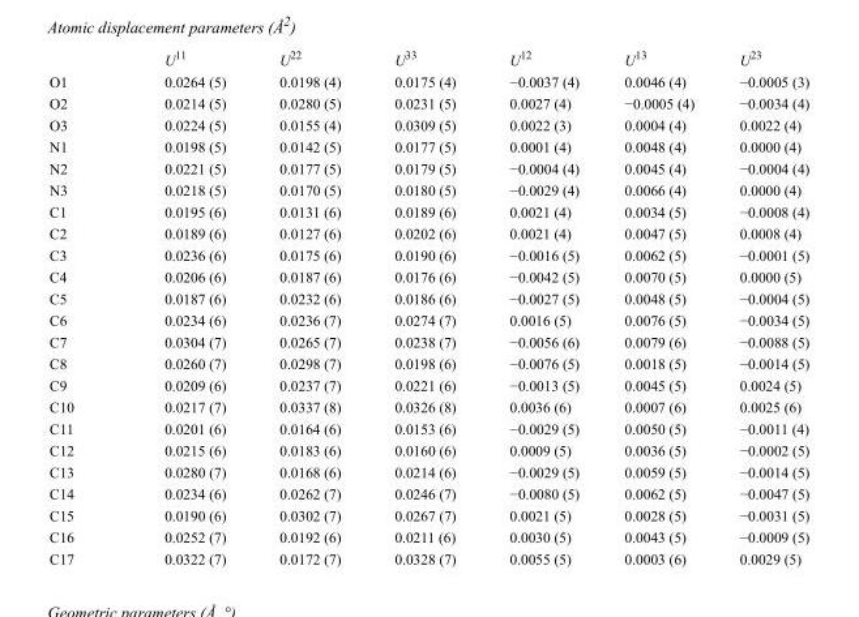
<table><thead><tr><td></td><td>U<sup>11</sup></td><td>U<sup>22</sup></td><td>U<sup>33</sup></td><td>U<sup>12</sup></td><td>U<sup>13</sup></td><td>U<sup>23</sup></td></tr></thead><tbody><tr><td>O1</td><td>0.0264 (5)</td><td>0.0198 (4)</td><td>0.0175 (4)</td><td>−0.0037 (4)</td><td>0.0046 (4)</td><td>−0.0005 (3)</td></tr><tr><td>O2</td><td>0.0214 (5)</td><td>0.0280 (5)</td><td>0.0231 (5)</td><td>0.0027 (4)</td><td>−0.0005 (4)</td><td>−0.0034 (4)</td></tr><tr><td>O3</td><td>0.0224 (5)</td><td>0.0155 (4)</td><td>0.0309 (5)</td><td>0.0022 (3)</td><td>0.0004 (4)</td><td>0.0022 (4)</td></tr><tr><td>N1</td><td>0.0198 (5)</td><td>0.0142 (5)</td><td>0.0177 (5)</td><td>0.0001 (4)</td><td>0.0048 (4)</td><td>0.0000 (4)</td></tr><tr><td>N2</td><td>0.0221 (5)</td><td>0.0177 (5)</td><td>0.0179 (5)</td><td>−0.0004 (4)</td><td>0.0045 (4)</td><td>−0.0004 (4)</td></tr><tr><td>N3</td><td>0.0218 (5)</td><td>0.0170 (5)</td><td>0.0180 (5)</td><td>−0.0029 (4)</td><td>0.0066 (4)</td><td>0.0000 (4)</td></tr><tr><td>C1</td><td>0.0195 (6)</td><td>0.0131 (6)</td><td>0.0189 (6)</td><td>0.0021 (4)</td><td>0.0034 (5)</td><td>−0.0008 (4)</td></tr><tr><td>C2</td><td>0.0189 (6)</td><td>0.0127 (6)</td><td>0.0202 (6)</td><td>0.0021 (4)</td><td>0.0047 (5)</td><td>0.0008 (4)</td></tr><tr><td>C3</td><td>0.0236 (6)</td><td>0.0175 (6)</td><td>0.0190 (6)</td><td>−0.0016 (5)</td><td>0.0062 (5)</td><td>−0.0001 (5)</td></tr><tr><td>C4</td><td>0.0206 (6)</td><td>0.0187 (6)</td><td>0.0176 (6)</td><td>−0.0042 (5)</td><td>0.0070 (5)</td><td>0.0000 (5)</td></tr><tr><td>C5</td><td>0.0187 (6)</td><td>0.0232 (6)</td><td>0.0186 (6)</td><td>−0.0027 (5)</td><td>0.0048 (5)</td><td>−0.0004 (5)</td></tr><tr><td>C6</td><td>0.0234 (6)</td><td>0.0236 (7)</td><td>0.0274 (7)</td><td>0.0016 (5)</td><td>0.0076 (5)</td><td>−0.0034 (5)</td></tr><tr><td>C7</td><td>0.0304 (7)</td><td>0.0265 (7)</td><td>0.0238 (7)</td><td>−0.0056 (6)</td><td>0.0079 (6)</td><td>−0.0088 (5)</td></tr><tr><td>C8</td><td>0.0260 (7)</td><td>0.0298 (7)</td><td>0.0198 (6)</td><td>−0.0076 (5)</td><td>0.0018 (5)</td><td>−0.0014 (5)</td></tr><tr><td>C9</td><td>0.0209 (6)</td><td>0.0237 (7)</td><td>0.0221 (6)</td><td>−0.0013 (5)</td><td>0.0045 (5)</td><td>0.0024 (5)</td></tr><tr><td>C10</td><td>0.0217 (7)</td><td>0.0337 (8)</td><td>0.0326 (8)</td><td>0.0036 (6)</td><td>0.0007 (6)</td><td>0.0025 (6)</td></tr><tr><td>C11</td><td>0.0201 (6)</td><td>0.0164 (6)</td><td>0.0153 (6)</td><td>−0.0029 (5)</td><td>0.0050 (5)</td><td>−0.0011 (4)</td></tr><tr><td>C12</td><td>0.0215 (6)</td><td>0.0183 (6)</td><td>0.0160 (6)</td><td>0.0009 (5)</td><td>0.0036 (5)</td><td>−0.0002 (5)</td></tr><tr><td>C13</td><td>0.0280 (7)</td><td>0.0168 (6)</td><td>0.0214 (6)</td><td>−0.0029 (5)</td><td>0.0059 (5)</td><td>−0.0014 (5)</td></tr><tr><td>C14</td><td>0.0234 (6)</td><td>0.0262 (7)</td><td>0.0246 (7)</td><td>−0.0080 (5)</td><td>0.0062 (5)</td><td>−0.0047 (5)</td></tr><tr><td>C15</td><td>0.0190 (6)</td><td>0.0302 (7)</td><td>0.0267 (7)</td><td>0.0021 (5)</td><td>0.0028 (5)</td><td>−0.0031 (5)</td></tr><tr><td>C16</td><td>0.0252 (7)</td><td>0.0192 (6)</td><td>0.0211 (6)</td><td>0.0030 (5)</td><td>0.0043 (5)</td><td>−0.0009 (5)</td></tr><tr><td>C17</td><td>0.0322 (7)</td><td>0.0172 (7)</td><td>0.0328 (7)</td><td>0.0055 (5)</td><td>0.0003 (6)</td><td>0.0029 (5)</td></tr></tbody></table>